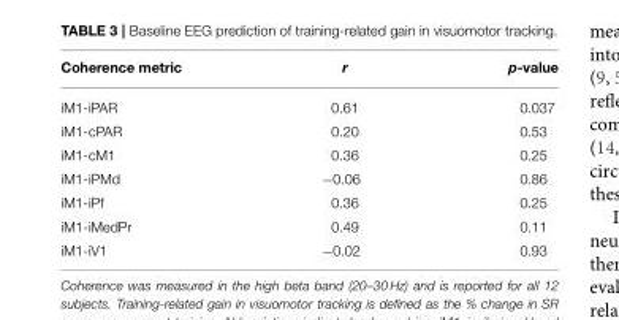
<table><thead><tr><td>Coherence metric</td><td>r</td><td>p-value</td></tr></thead><tbody><tr><td>iM1-iPAR</td><td>0.61</td><td>0.037</td></tr><tr><td>iM1-cPAR</td><td>0.20</td><td>0.53</td></tr><tr><td>iM1-cM1</td><td>0.36</td><td>0.25</td></tr><tr><td>iM1-iPMd</td><td>−0.06</td><td>0.86</td></tr><tr><td>iM1-iPf</td><td>0.36</td><td>0.25</td></tr><tr><td>iM1-iMedPr</td><td>0.49</td><td>0.11</td></tr><tr><td>iM1-iV1</td><td>−0.02</td><td>0.93</td></tr></tbody></table>